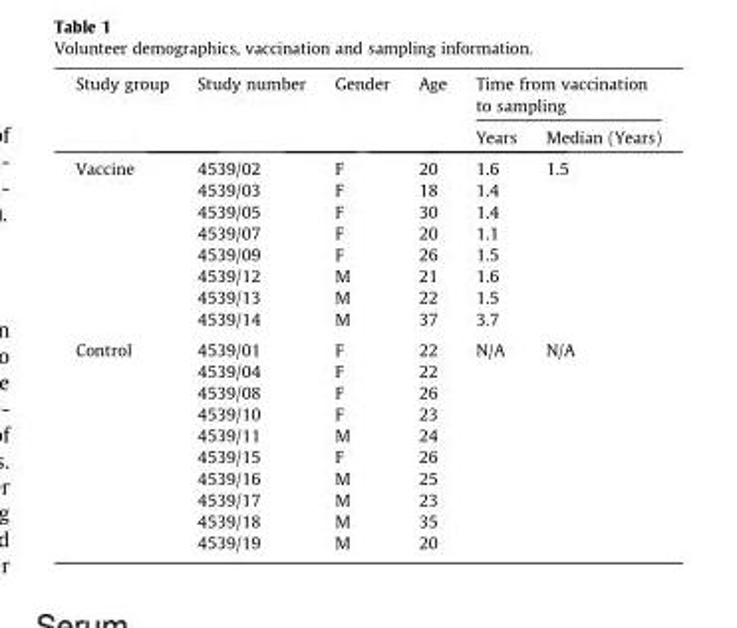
<table><thead><tr><td rowspan="2">Study group</td><td rowspan="2">Study number</td><td rowspan="2">Gender</td><td rowspan="2">Age</td><td colspan="2">Time from vaccination to sampling</td></tr><tr><td>Years</td><td>Median (Years)</td></tr></thead><tbody><tr><td rowspan="8">Vaccine</td><td>4539/02</td><td>F</td><td>20</td><td>1.6</td><td rowspan="8">1.5</td></tr><tr><td>4539/03</td><td>F</td><td>18</td><td>1.4</td></tr><tr><td>4539/05</td><td>F</td><td>30</td><td>1.4</td></tr><tr><td>4539/07</td><td>F</td><td>20</td><td>1.1</td></tr><tr><td>4539/09</td><td>F</td><td>26</td><td>1.5</td></tr><tr><td>4539/12</td><td>M</td><td>21</td><td>1.6</td></tr><tr><td>4539/13</td><td>M</td><td>22</td><td>1.5</td></tr><tr><td>4539/14</td><td>M</td><td>37</td><td>3.7</td></tr><tr><td rowspan="10">Control</td><td>4539/01</td><td>F</td><td>22</td><td rowspan="10">N/A</td><td rowspan="10">N/A</td></tr><tr><td>4539/04</td><td>F</td><td>22</td></tr><tr><td>4539/08</td><td>F</td><td>26</td></tr><tr><td>4539/10</td><td>F</td><td>23</td></tr><tr><td>4539/11</td><td>M</td><td>24</td></tr><tr><td>4539/15</td><td>F</td><td>26</td></tr><tr><td>4539/16</td><td>M</td><td>25</td></tr><tr><td>4539/17</td><td>M</td><td>23</td></tr><tr><td>4539/18</td><td>M</td><td>35</td></tr><tr><td>4539/19</td><td>M</td><td>20</td></tr></tbody></table>